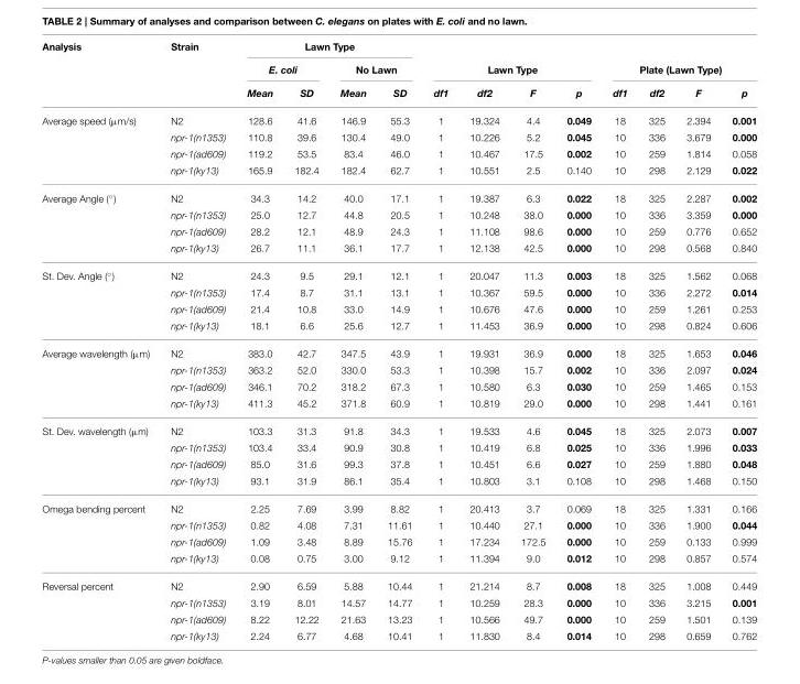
<table><thead><tr><td rowspan="3">Analysis</td><td rowspan="3">Strain</td><td colspan="4">Lawn Type</td><td></td><td></td><td></td><td></td><td></td><td></td><td></td><td></td></tr><tr><td colspan="2">E. coli</td><td colspan="2">No Lawn</td><td colspan="4">Lawn Type</td><td colspan="4">Plate (Lawn Type)</td></tr><tr><td>Mean</td><td>SD</td><td>Mean</td><td>SD</td><td>df1</td><td>df2</td><td>F</td><td>p</td><td>df1</td><td>df2</td><td>F</td><td>p</td></tr></thead><tbody><tr><td rowspan="4">Average speed (µm/s)</td><td>N2</td><td>128.6</td><td>41.6</td><td>146.9</td><td>55.3</td><td>1</td><td>19.324</td><td>4.4</td><td>0.049</td><td>18</td><td>325</td><td>2.394</td><td>0.001</td></tr><tr><td>npr-1(n1353)</td><td>110.8</td><td>39.6</td><td>130.4</td><td>49.0</td><td>1</td><td>10.226</td><td>5.2</td><td>0.045</td><td>10</td><td>336</td><td>3.679</td><td>0.000</td></tr><tr><td>npr-1(ad609)</td><td>119.2</td><td>53.5</td><td>83.4</td><td>46.0</td><td>1</td><td>10.467</td><td>17.5</td><td>0.002</td><td>10</td><td>259</td><td>1.814</td><td>0.058</td></tr><tr><td>npr-1(ky13)</td><td>165.9</td><td>182.4</td><td>182.4</td><td>62.7</td><td>1</td><td>10.551</td><td>2.5</td><td>0.140</td><td>10</td><td>298</td><td>2.129</td><td>0.022</td></tr><tr><td rowspan="4">Average Angle (◦)</td><td>N2</td><td>34.3</td><td>14.2</td><td>40.0</td><td>17.1</td><td>1</td><td>19.387</td><td>6.3</td><td>0.022</td><td>18</td><td>325</td><td>2.287</td><td>0.002</td></tr><tr><td>npr-1(n1353)</td><td>25.0</td><td>12.7</td><td>44.8</td><td>20.5</td><td>1</td><td>10.248</td><td>38.0</td><td>0.000</td><td>10</td><td>336</td><td>3.359</td><td>0.000</td></tr><tr><td>npr-1(ad609)</td><td>28.2</td><td>12.1</td><td>48.9</td><td>24.3</td><td>1</td><td>11.108</td><td>98.6</td><td>0.000</td><td>10</td><td>259</td><td>0.776</td><td>0.652</td></tr><tr><td>npr-1(ky13)</td><td>26.7</td><td>11.1</td><td>36.1</td><td>17.7</td><td>1</td><td>12.138</td><td>42.5</td><td>0.000</td><td>10</td><td>298</td><td>0.568</td><td>0.840</td></tr><tr><td rowspan="4">St. Dev. Angle (◦)</td><td>N2</td><td>24.3</td><td>9.5</td><td>29.1</td><td>12.1</td><td>1</td><td>20.047</td><td>11.3</td><td>0.003</td><td>18</td><td>325</td><td>1.562</td><td>0.068</td></tr><tr><td>npr-1(n1353)</td><td>17.4</td><td>8.7</td><td>31.1</td><td>13.1</td><td>1</td><td>10.367</td><td>59.5</td><td>0.000</td><td>10</td><td>336</td><td>2.272</td><td>0.014</td></tr><tr><td>npr-1(ad609)</td><td>21.4</td><td>10.8</td><td>33.0</td><td>14.9</td><td>1</td><td>10.676</td><td>47.6</td><td>0.000</td><td>10</td><td>259</td><td>1.261</td><td>0.253</td></tr><tr><td>npr-1(ky13)</td><td>18.1</td><td>6.6</td><td>25.6</td><td>12.7</td><td>1</td><td>11.453</td><td>36.9</td><td>0.000</td><td>10</td><td>298</td><td>0.824</td><td>0.606</td></tr><tr><td rowspan="4">Average wavelength (µm)</td><td>N2</td><td>383.0</td><td>42.7</td><td>347.5</td><td>43.9</td><td>1</td><td>19.931</td><td>36.9</td><td>0.000</td><td>18</td><td>325</td><td>1.653</td><td>0.046</td></tr><tr><td>npr-1(n1353)</td><td>363.2</td><td>52.0</td><td>330.0</td><td>53.3</td><td>1</td><td>10.398</td><td>15.7</td><td>0.002</td><td>10</td><td>336</td><td>2.097</td><td>0.024</td></tr><tr><td>npr-1(ad609)</td><td>346.1</td><td>70.2</td><td>318.2</td><td>67.3</td><td>1</td><td>10.580</td><td>6.3</td><td>0.030</td><td>10</td><td>259</td><td>1.465</td><td>0.153</td></tr><tr><td>npr-1(ky13)</td><td>411.3</td><td>45.2</td><td>371.8</td><td>60.9</td><td>1</td><td>10.819</td><td>29.0</td><td>0.000</td><td>10</td><td>298</td><td>1.441</td><td>0.161</td></tr><tr><td rowspan="4">St. Dev. wavelength (µm)</td><td>N2</td><td>103.3</td><td>31.3</td><td>91.8</td><td>34.3</td><td>1</td><td>19.533</td><td>4.6</td><td>0.045</td><td>18</td><td>325</td><td>2.073</td><td>0.007</td></tr><tr><td>npr-1(n1353)</td><td>103.4</td><td>33.4</td><td>90.9</td><td>30.8</td><td>1</td><td>10.419</td><td>6.8</td><td>0.025</td><td>10</td><td>336</td><td>1.996</td><td>0.033</td></tr><tr><td>npr-1(ad609)</td><td>85.0</td><td>31.6</td><td>99.3</td><td>37.8</td><td>1</td><td>10.451</td><td>6.6</td><td>0.027</td><td>10</td><td>259</td><td>1.880</td><td>0.048</td></tr><tr><td>npr-1(ky13)</td><td>93.1</td><td>31.9</td><td>86.1</td><td>35.4</td><td>1</td><td>10.803</td><td>3.1</td><td>0.108</td><td>10</td><td>298</td><td>1.468</td><td>0.150</td></tr><tr><td rowspan="4">Omega bending percent</td><td>N2</td><td>2.25</td><td>7.69</td><td>3.99</td><td>8.82</td><td>1</td><td>20.413</td><td>3.7</td><td>0.069</td><td>18</td><td>325</td><td>1.331</td><td>0.166</td></tr><tr><td>npr-1(n1353)</td><td>0.82</td><td>4.08</td><td>7.31</td><td>11.61</td><td>1</td><td>10.440</td><td>27.1</td><td>0.000</td><td>10</td><td>336</td><td>1.900</td><td>0.044</td></tr><tr><td>npr-1(ad609)</td><td>1.09</td><td>3.48</td><td>8.89</td><td>15.76</td><td>1</td><td>17.234</td><td>172.5</td><td>0.000</td><td>10</td><td>259</td><td>0.133</td><td>0.999</td></tr><tr><td>npr-1(ky13)</td><td>0.08</td><td>0.75</td><td>3.00</td><td>9.12</td><td>1</td><td>11.394</td><td>9.0</td><td>0.012</td><td>10</td><td>298</td><td>0.857</td><td>0.574</td></tr><tr><td rowspan="4">Reversal percent</td><td>N2</td><td>2.90</td><td>6.59</td><td>5.88</td><td>10.44</td><td>1</td><td>21.214</td><td>8.7</td><td>0.008</td><td>18</td><td>325</td><td>1.008</td><td>0.449</td></tr><tr><td>npr-1(n1353)</td><td>3.19</td><td>8.01</td><td>14.57</td><td>14.77</td><td>1</td><td>10.259</td><td>28.3</td><td>0.000</td><td>10</td><td>336</td><td>3.215</td><td>0.001</td></tr><tr><td>npr-1(ad609)</td><td>8.22</td><td>12.22</td><td>21.63</td><td>13.23</td><td>1</td><td>10.566</td><td>49.7</td><td>0.000</td><td>10</td><td>259</td><td>1.501</td><td>0.139</td></tr><tr><td>npr-1(ky13)</td><td>2.24</td><td>6.77</td><td>4.68</td><td>10.41</td><td>1</td><td>11.830</td><td>8.4</td><td>0.014</td><td>10</td><td>298</td><td>0.659</td><td>0.762</td></tr></tbody></table>